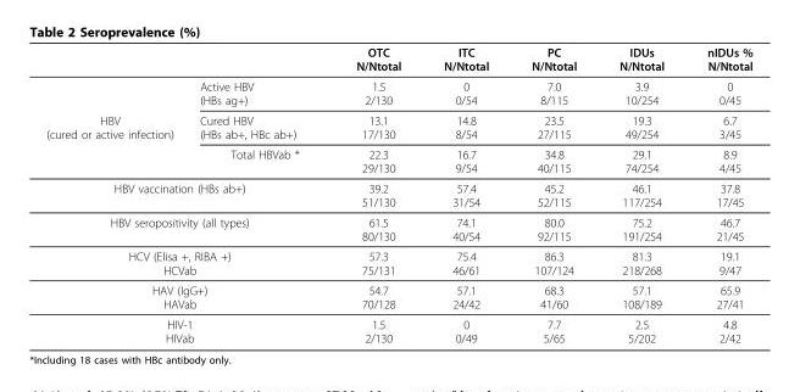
<table><thead><tr><td></td><td></td><td>OTC N/Ntotal</td><td>ITC N/Ntotal</td><td>PC N/Ntotal</td><td>IDUs N/Ntotal</td><td>nIDUs % N/Ntotal</td></tr></thead><tbody><tr><td></td><td>Active HBV (HBs ag+)</td><td>1.5 2/130</td><td>0 0/54</td><td>7.0 8/115</td><td>3.9 10/254</td><td>0 0/45</td></tr><tr><td rowspan="2">HBV (cured or active infection)</td><td>Cured HBV (HBs ab+, HBc ab+)</td><td>13.1 17/130</td><td>14.8 8/54</td><td>23.5 27/115</td><td>19.3 49/254</td><td>6.7 3/45</td></tr><tr><td>Total HBVab *</td><td>22.3 29/130</td><td>16.7 9/54</td><td>34.8 40/115</td><td>29.1 74/254</td><td>8.9 4/45</td></tr><tr><td colspan="2">HBV vaccination (HBs ab+)</td><td>39.2 51/130</td><td>57.4 31/54</td><td>45.2 52/115</td><td>46.1 117/254</td><td>37.8 17/45</td></tr><tr><td colspan="2">HBV seropositivity (all types)</td><td>61.5 80/130</td><td>74.1 40/54</td><td>80.0 92/115</td><td>75.2 191/254</td><td>46.7 21/45</td></tr><tr><td colspan="2">HCV (Elisa +, RIBA +) HCVab</td><td>57.3 75/131</td><td>75.4 46/61</td><td>86.3 107/124</td><td>81.3 218/268</td><td>19.1 9/47</td></tr><tr><td colspan="2">HAV (IgG+) HAVab</td><td>54.7 70/128</td><td>57.1 24/42</td><td>68.3 41/60</td><td>57.1 108/189</td><td>65.9 27/41</td></tr><tr><td colspan="2">HIV-1 HIVab</td><td>1.5 2/130</td><td>0 0/49</td><td>7.7 5/65</td><td>2.5 5/202</td><td>4.8 2/42</td></tr></tbody></table>